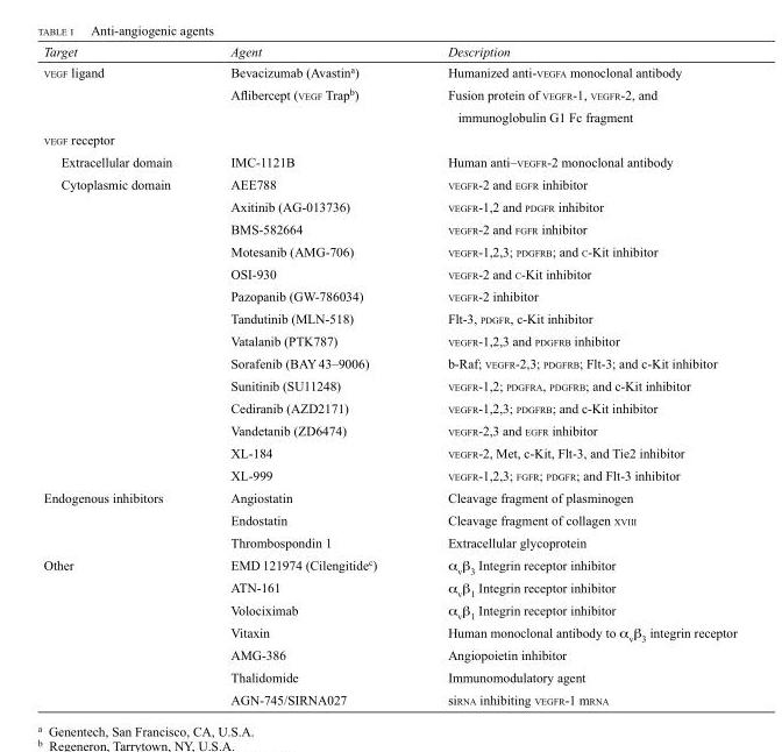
<table><thead><tr><td>Target</td><td>Agent</td><td>Description</td></tr></thead><tbody><tr><td rowspan="2">vegf ligand</td><td>Bevacizumab (Avastin<sup>a</sup>)</td><td>Humanized anti-vegfa monoclonal antibody</td></tr><tr><td>Aflibercept (vegf Trap<sup>b</sup>)</td><td>Fusion protein of vegfr-1, vegfr-2, and immunoglobulin G1 Fc fragment</td></tr><tr><td colspan="3">vegf receptor</td></tr><tr><td>Extracellular domain</td><td>IMC-1121B</td><td>Human anti–vegfr-2 monoclonal antibody</td></tr><tr><td rowspan="14">Cytoplasmic domain</td><td>AEE788</td><td>vegfr-2 and egfr inhibitor</td></tr><tr><td>Axitinib (AG-013736)</td><td>vegfr-1,2 and pdgfr inhibitor</td></tr><tr><td>BMS-582664</td><td>vegfr-2 and fgfr inhibitor</td></tr><tr><td>Motesanib (AMG-706)</td><td>vegfr-1,2,3; pdgfrb; and c-Kit inhibitor</td></tr><tr><td>OSI-930</td><td>vegfr-2 and c-Kit inhibitor</td></tr><tr><td>Pazopanib (GW-786034)</td><td>vegfr-2 inhibitor</td></tr><tr><td>Tandutinib (MLN-518)</td><td>Flt-3, pdgfr, c-Kit inhibitor</td></tr><tr><td>Vatalanib (PTK787)</td><td>vegfr-1,2,3 and pdgfrb inhibitor</td></tr><tr><td>Sorafenib (BAY 43–9006)</td><td>b-Raf; vegfr-2,3; pdgfrb; Flt-3; and c-Kit inhibitor</td></tr><tr><td>Sunitinib (SU11248)</td><td>vegfr-1,2; pdgfra, pdgfrb; and c-Kit inhibitor</td></tr><tr><td>Cediranib (AZD2171)</td><td>vegfr-1,2,3; pdgfrb; and c-Kit inhibitor</td></tr><tr><td>Vandetanib (ZD6474)</td><td>vegfr-2,3 and egfr inhibitor</td></tr><tr><td>XL-184</td><td>vegfr-2, Met, c-Kit, Flt-3, and Tie2 inhibitor</td></tr><tr><td>XL-999</td><td>vegfr-1,2,3; fgfr; pdgfr; and Flt-3 inhibitor</td></tr><tr><td rowspan="3">Endogenous inhibitors</td><td>Angiostatin</td><td>Cleavage fragment of plasminogen</td></tr><tr><td>Endostatin</td><td>Cleavage fragment of collagen xviii</td></tr><tr><td>Thrombospondin 1</td><td>Extracellular glycoprotein</td></tr><tr><td rowspan="7">Other</td><td>EMD 121974 (Cilengitide<sup>c</sup>)</td><td>α<sub>v</sub>β<sub>3</sub> Integrin receptor inhibitor</td></tr><tr><td>ATN-161</td><td>α<sub>v</sub>β<sub>1</sub> Integrin receptor inhibitor</td></tr><tr><td>Volociximab</td><td>α<sub>v</sub>β<sub>1</sub> Integrin receptor inhibitor</td></tr><tr><td>Vitaxin</td><td>Human monoclonal antibody to α<sub>v</sub>β<sub>3</sub> integrin receptor</td></tr><tr><td>AMG-386</td><td>Angiopoietin inhibitor</td></tr><tr><td>Thalidomide</td><td>Immunomodulatory agent</td></tr><tr><td>AGN-745/SIRNA027</td><td>sirna inhibiting vegfr-1 mrna</td></tr></tbody></table>